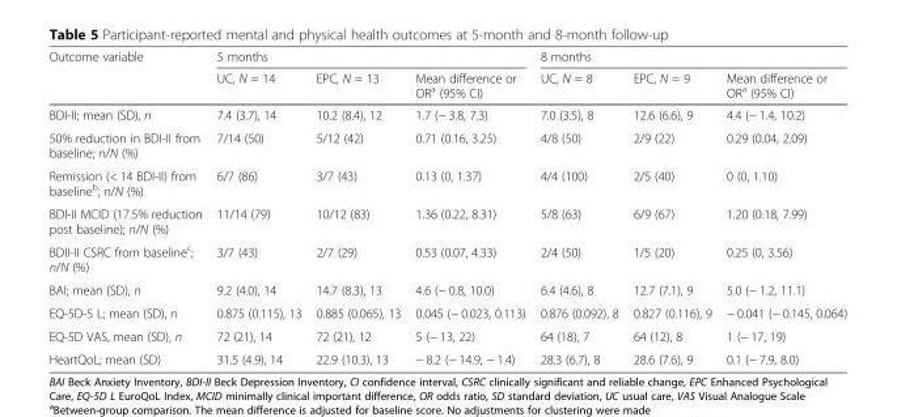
<table><thead><tr><td rowspan="2">Outcome variable</td><td colspan="3">5 months</td><td colspan="3">8 months</td></tr><tr><td>UC, N = 14</td><td>EPC, N = 13</td><td>Mean difference or OR<sup>a</sup> (95% CI)</td><td>UC, N = 8</td><td>EPC, N = 9</td><td>Mean difference or OR<sup>a</sup> (95% CI)</td></tr></thead><tbody><tr><td>BDI-II; mean (SD), n</td><td>7.4 (3.7), 14</td><td>10.2 (8.4), 12</td><td>1.7 (− 3.8, 7.3)</td><td>7.0 (3.5), 8</td><td>12.6 (6.6), 9</td><td>4.4 (− 1.4, 10.2)</td></tr><tr><td>50% reduction in BDI-II from baseline; n/N (%)</td><td>7/14 (50)</td><td>5/12 (42)</td><td>0.71 (0.16, 3.25)</td><td>4/8 (50)</td><td>2/9 (22)</td><td>0.29 (0.04, 2.09)</td></tr><tr><td>Remission (&lt; 14 BDI-II) from baseline<sup>b</sup>; n/N (%)</td><td>6/7 (86)</td><td>3/7 (43)</td><td>0.13 (0, 1.37)</td><td>4/4 (100)</td><td>2/5 (40)</td><td>0 (0, 1.10)</td></tr><tr><td>BDI-II MCID (17.5% reduction post baseline); n/N (%)</td><td>11/14 (79)</td><td>10/12 (83)</td><td>1.36 (0.22, 8.31)</td><td>5/8 (63)</td><td>6/9 (67)</td><td>1.20 (0.18, 7.99)</td></tr><tr><td>BDII-II CSRC from baseline<sup>c</sup>; n/N (%)</td><td>3/7 (43)</td><td>2/7 (29)</td><td>0.53 (0.07, 4.33)</td><td>2/4 (50)</td><td>1/5 (20)</td><td>0.25 (0, 3.56)</td></tr><tr><td>BAI; mean (SD), n</td><td>9.2 (4.0), 14</td><td>14.7 (8.3), 13</td><td>4.6 (− 0.8, 10.0)</td><td>6.4 (4.6), 8</td><td>12.7 (7.1), 9</td><td>5.0 (− 1.2, 11.1)</td></tr><tr><td>EQ-5D-5 L; mean (SD), n</td><td>0.875 (0.115), 13</td><td>0.885 (0.065), 13</td><td>0.045 (− 0.023, 0.113)</td><td>0.876 (0.092), 8</td><td>0.827 (0.116), 9</td><td>− 0.041 (− 0.145, 0.064)</td></tr><tr><td>EQ-5D VAS, mean (SD), n</td><td>72 (21), 14</td><td>72 (21), 12</td><td>5 (− 13, 22)</td><td>64 (18), 7</td><td>64 (12), 8</td><td>1 (− 17, 19)</td></tr><tr><td>HeartQoL; mean (SD)</td><td>31.5 (4.9), 14</td><td>22.9 (10.3), 13</td><td>− 8.2 (− 14.9, − 1.4)</td><td>28.3 (6.7), 8</td><td>28.6 (7.6), 9</td><td>0.1 (− 7.9, 8.0)</td></tr></tbody></table>